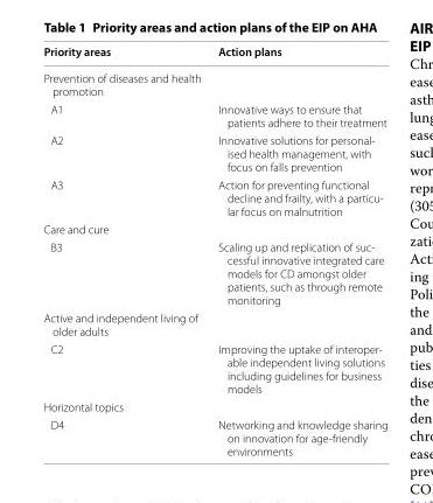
<table><thead><tr><td>Priority areas</td><td>Action plans</td></tr></thead><tbody><tr><td colspan="2">Prevention of diseases and health promotion</td></tr><tr><td>A1</td><td>Innovative ways to ensure that patients adhere to their treatment</td></tr><tr><td>A2</td><td>Innovative solutions for personal‑ ised health management, with focus on falls prevention</td></tr><tr><td>A3</td><td>Action for preventing functional decline and frailty, with a particu‑ lar focus on malnutrition</td></tr><tr><td colspan="2">Care and cure</td></tr><tr><td>B3</td><td>Scaling up and replication of suc‑ cessful innovative integrated care models for CD amongst older patients, such as through remote monitoring</td></tr><tr><td colspan="2">Active and independent living of older adults</td></tr><tr><td>C2</td><td>Improving the uptake of interoper‑ able independent living solutions including guidelines for business models</td></tr><tr><td colspan="2">Horizontal topics</td></tr><tr><td>D4</td><td>Networking and knowledge sharing on innovation for age‑friendly environments</td></tr></tbody></table>